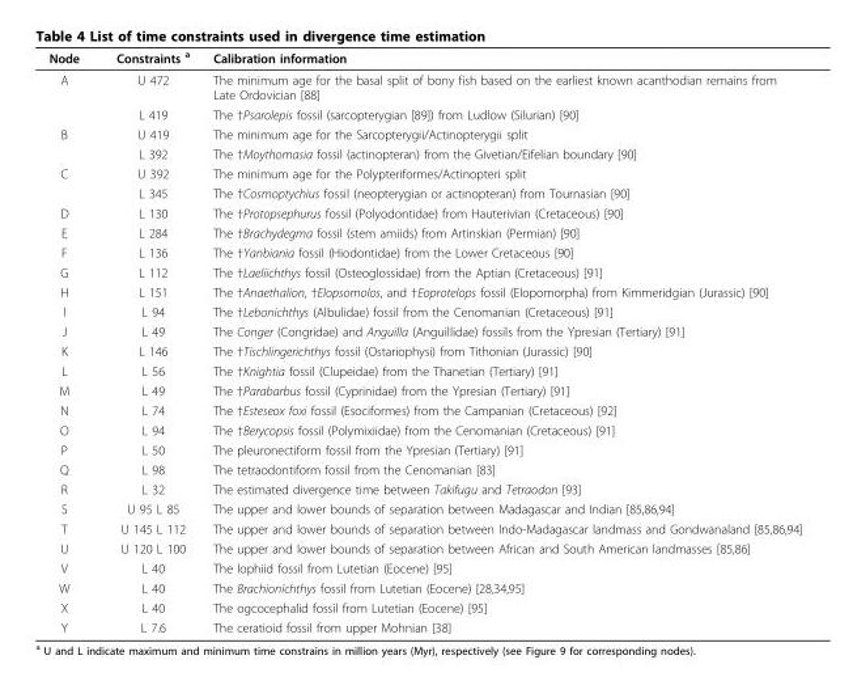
<table><thead><tr><td>Node</td><td>Constraints <sup>a</sup></td><td>Calibration information</td></tr></thead><tbody><tr><td rowspan="2">A</td><td>U 472</td><td>The minimum age for the basal split of bony fish based on the earliest known acanthodian remains from Late Ordovician [88]</td></tr><tr><td>L 419</td><td>The †Psarolepis fossil (sarcopterygian [89]) from Ludlow (Silurian) [90]</td></tr><tr><td rowspan="2">B</td><td>U 419</td><td>The minimum age for the Sarcopterygii/Actinopterygii split</td></tr><tr><td>L 392</td><td>The †Moythomasia fossil (actinopteran) from the Givetian/Eifelian boundary [90]</td></tr><tr><td rowspan="2">C</td><td>U 392</td><td>The minimum age for the Polypteriformes/Actinopteri split</td></tr><tr><td>L 345</td><td>The †Cosmoptychius fossil (neopterygian or actinopteran) from Tournasian [90]</td></tr><tr><td>D</td><td>L 130</td><td>The †Protopsephurus fossil (Polyodontidae) from Hauterivian (Cretaceous) [90]</td></tr><tr><td>E</td><td>L 284</td><td>The †Brachydegma fossil (stem amiids) from Artinskian (Permian) [90]</td></tr><tr><td>F</td><td>L 136</td><td>The †Yanbiania fossil (Hiodontidae) from the Lower Cretaceous [90]</td></tr><tr><td>G</td><td>L 112</td><td>The †Laeliichthys fossil (Osteoglossidae) from the Aptian (Cretaceous) [91]</td></tr><tr><td>H</td><td>L 151</td><td>The †Anaethalion, †Elopsomolos, and †Eoprotelops fossil (Elopomorpha) from Kimmeridgian (Jurassic) [90]</td></tr><tr><td>I</td><td>L 94</td><td>The †Lebonichthys (Albulidae) fossil from the Cenomanian (Cretaceous) [91]</td></tr><tr><td>J</td><td>L 49</td><td>The Conger (Congridae) and Anguilla (Anguillidae) fossils from the Ypresian (Tertiary) [91]</td></tr><tr><td>K</td><td>L 146</td><td>The †Tischlingerichthys fossil (Ostariophysi) from Tithonian (Jurassic) [90]</td></tr><tr><td>L</td><td>L 56</td><td>The †Knightia fossil (Clupeidae) from the Thanetian (Tertiary) [91]</td></tr><tr><td>M</td><td>L 49</td><td>The †Parabarbus fossil (Cyprinidae) from the Ypresian (Tertiary) [91]</td></tr><tr><td>N</td><td>L 74</td><td>The †Esteseox foxi fossil (Esociformes) from the Campanian (Cretaceous) [92]</td></tr><tr><td>O</td><td>L 94</td><td>The †Berycopsis fossil (Polymixiidae) from the Cenomanian (Cretaceous) [91]</td></tr><tr><td>P</td><td>L 50</td><td>The pleuronectiform fossil from the Ypresian (Tertiary) [91]</td></tr><tr><td>Q</td><td>L 98</td><td>The tetraodontiform fossil from the Cenomanian [83]</td></tr><tr><td>R</td><td>L 32</td><td>The estimated divergence time between Takifugu and Tetraodon [93]</td></tr><tr><td>S</td><td>U 95 L 85</td><td>The upper and lower bounds of separation between Madagascar and Indian [85,86,94]</td></tr><tr><td>T</td><td>U 145 L 112</td><td>The upper and lower bounds of separation between Indo-Madagascar landmass and Gondwanaland [85,86,94]</td></tr><tr><td>U</td><td>U 120 L 100</td><td>The upper and lower bounds of separation between African and South American landmasses [85,86]</td></tr><tr><td>V</td><td>L 40</td><td>The lophiid fossil from Lutetian (Eocene) [95]</td></tr><tr><td>W</td><td>L 40</td><td>The Brachionichthys fossil from Lutetian (Eocene) [28,34,95]</td></tr><tr><td>X</td><td>L 40</td><td>The ogcocephalid fossil from Lutetian (Eocene) [95]</td></tr><tr><td>Y</td><td>L 7.6</td><td>The ceratioid fossil from upper Mohnian [38]</td></tr></tbody></table>